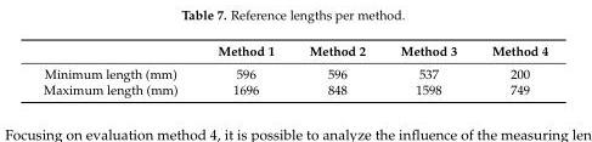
<table><thead><tr><td></td><td>Method 1</td><td>Method 2</td><td>Method 3</td><td>Method 4</td></tr></thead><tbody><tr><td>Minimum length (mm)</td><td>596</td><td>596</td><td>537</td><td>200</td></tr><tr><td>Maximum length (mm)</td><td>1696</td><td>848</td><td>1598</td><td>749</td></tr></tbody></table>